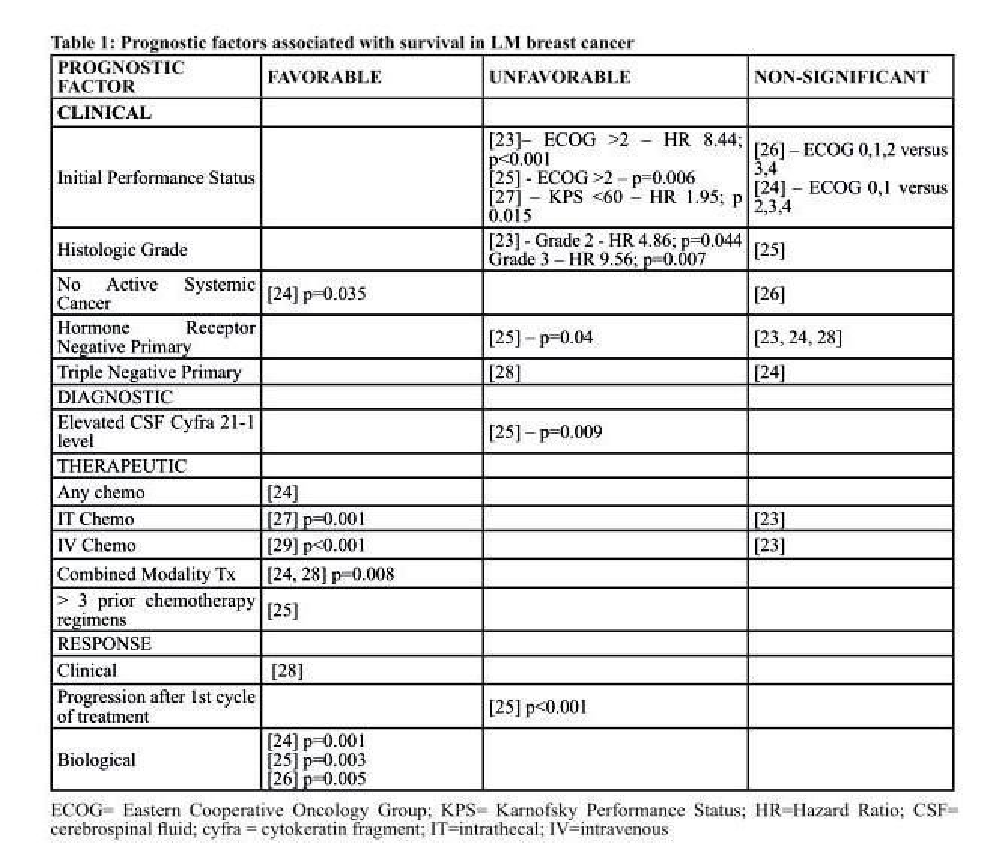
<table><thead><tr><td rowspan="2">ProGnostIc FActor cLInIcAL</td><td rowspan="2">FAVorAbLE</td><td rowspan="2">unFAVorAbLE</td><td rowspan="2">non-sIGnIFIcAnt</td></tr><tr></tr></thead><tbody><tr><td>Initial Performance Status</td><td></td><td>[23]– ECOG &gt;2 – HR 8.44; p&lt;0.001 [25] - ECOG &gt;2 – p=0.006 [27] – KPS &lt;60 – HR 1.95; p 0.015</td><td>[26] – ECOG 0,1,2 versus 3,4 [24] – ECOG 0,1 versus 2,3,4</td></tr><tr><td>Histologic Grade</td><td></td><td>[23] - Grade 2 - HR 4.86; p=0.044 Grade 3 – HR 9.56; p=0.007</td><td>[25]</td></tr><tr><td>No Active Systemic Cancer</td><td>[24] p=0.035</td><td></td><td>[26]</td></tr><tr><td>Hormone Receptor Negative Primary</td><td></td><td>[25] – p=0.04</td><td>[23, 24, 28]</td></tr><tr><td>Triple Negative Primary</td><td></td><td>[28]</td><td>[24]</td></tr><tr><td colspan="4">DIAGNOSTIC</td></tr><tr><td>Elevated CSF Cyfra 21-1 level</td><td></td><td>[25] – p=0.009</td><td></td></tr><tr><td colspan="4">THERAPEUTIC</td></tr><tr><td>Any chemo</td><td>[24]</td><td></td><td></td></tr><tr><td>IT Chemo</td><td>[27] p=0.001</td><td></td><td>[23]</td></tr><tr><td>IV Chemo</td><td>[29] p&lt;0.001</td><td></td><td>[23]</td></tr><tr><td>Combined Modality Tx</td><td>[24, 28] p=0.008</td><td></td><td></td></tr><tr><td>&gt; 3 prior chemotherapy regimens</td><td>[25]</td><td></td><td></td></tr><tr><td colspan="4">RESPONSE</td></tr><tr><td>Clinical</td><td>[28]</td><td></td><td></td></tr><tr><td>Progression after 1st cycle of treatment</td><td></td><td>[25] p&lt;0.001</td><td></td></tr><tr><td>Biological</td><td>[24] p=0.001 [25] p=0.003 [26] p=0.005</td><td></td><td></td></tr></tbody></table>